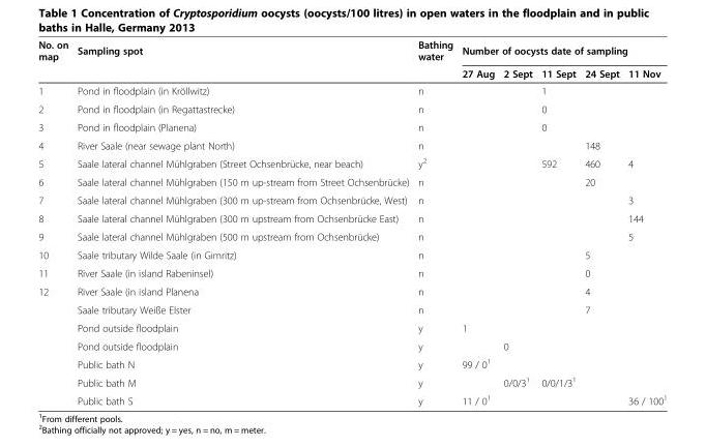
<table><thead><tr><td rowspan="2">No. on map</td><td rowspan="2">Sampling spot</td><td rowspan="2">Bathing water</td><td colspan="5">Number of oocysts date of sampling</td></tr><tr><td>27 Aug</td><td>2 Sept</td><td>11 Sept</td><td>24 Sept</td><td>11 Nov</td></tr></thead><tbody><tr><td>1</td><td>Pond in floodplain (in Kröllwitz)</td><td>n</td><td></td><td></td><td>1</td><td></td><td></td></tr><tr><td>2</td><td>Pond in floodplain (in Regattastrecke)</td><td>n</td><td></td><td></td><td>0</td><td></td><td></td></tr><tr><td>3</td><td>Pond in floodplain (Planena)</td><td>n</td><td></td><td></td><td>0</td><td></td><td></td></tr><tr><td>4</td><td>River Saale (near sewage plant North)</td><td>n</td><td></td><td></td><td></td><td>148</td><td></td></tr><tr><td>5</td><td>Saale lateral channel Mühlgraben (Street Ochsenbrücke, near beach)</td><td>y<sup>2</sup></td><td></td><td></td><td>592</td><td>460</td><td>4</td></tr><tr><td>6</td><td>Saale lateral channel Mühlgraben (150 m up-stream from Street Ochsenbrücke)</td><td>n</td><td></td><td></td><td></td><td>20</td><td></td></tr><tr><td>7</td><td>Saale lateral channel Mühlgraben (300 m up-stream from Ochsenbrücke, West)</td><td>n</td><td></td><td></td><td></td><td></td><td>3</td></tr><tr><td>8</td><td>Saale lateral channel Mühlgraben (300 m upstream from Ochsenbrücke East)</td><td>n</td><td></td><td></td><td></td><td></td><td>144</td></tr><tr><td>9</td><td>Saale lateral channel Mühlgraben (500 m upstream from Ochsenbrücke)</td><td>n</td><td></td><td></td><td></td><td></td><td>5</td></tr><tr><td>10</td><td>Saale tributary Wilde Saale (in Gimritz)</td><td>n</td><td></td><td></td><td></td><td>5</td><td></td></tr><tr><td>11</td><td>River Saale (in island Rabeninsel)</td><td>n</td><td></td><td></td><td></td><td>0</td><td></td></tr><tr><td rowspan="7">12</td><td>River Saale (in island Planena</td><td>n</td><td></td><td></td><td></td><td>4</td><td></td></tr><tr><td>Saale tributary Weiße Elster</td><td>n</td><td></td><td></td><td></td><td>7</td><td></td></tr><tr><td>Pond outside floodplain</td><td>y</td><td>1</td><td></td><td></td><td></td><td></td></tr><tr><td>Pond outside floodplain</td><td>y</td><td></td><td>0</td><td></td><td></td><td></td></tr><tr><td>Public bath N</td><td>y</td><td>99 / 0<sup>1</sup></td><td></td><td></td><td></td><td></td></tr><tr><td>Public bath M</td><td>y</td><td></td><td>0/0/3<sup>1</sup></td><td>0/0/1/3<sup>1</sup></td><td></td><td></td></tr><tr><td>Public bath S</td><td>y</td><td>11 / 0<sup>1</sup></td><td></td><td></td><td></td><td>36 / 100<sup>1</sup></td></tr></tbody></table>